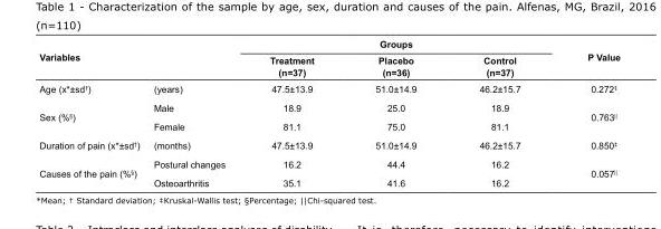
<table><tbody><tr><td rowspan="2" colspan="2">Variables</td><td colspan="3">Groups</td><td rowspan="2">P Value</td></tr><tr><td>Treatment (n=37)</td><td>Placebo (n=36)</td><td>Control (n=37)</td></tr><tr><td>Age (x*±sd<sup>†</sup>)</td><td>(years)</td><td>47.5±13.9</td><td>51.0±14.9</td><td>46.2±15.7</td><td>0.272<sup>‡</sup></td></tr><tr><td rowspan="2">Sex (%<sup>§</sup>)</td><td>Male</td><td>18.9</td><td>25.0</td><td>18.9</td><td rowspan="2">0.763<sup>||</sup></td></tr><tr><td>Female</td><td>81.1</td><td>75.0</td><td>81.1</td></tr><tr><td>Duration of pain (x*±sd<sup>†</sup>)</td><td>(months)</td><td>47.5±13.9</td><td>51.0±14.9</td><td>46.2±15.7</td><td>0.850<sup>‡</sup></td></tr><tr><td rowspan="2">Causes of the pain (%<sup>§</sup>)</td><td>Postural changes</td><td>16.2</td><td>44.4</td><td>16.2</td><td rowspan="2">0.057<sup>||</sup></td></tr><tr><td>Osteoarthritis</td><td>35.1</td><td>41.6</td><td>16.2</td></tr></tbody></table>